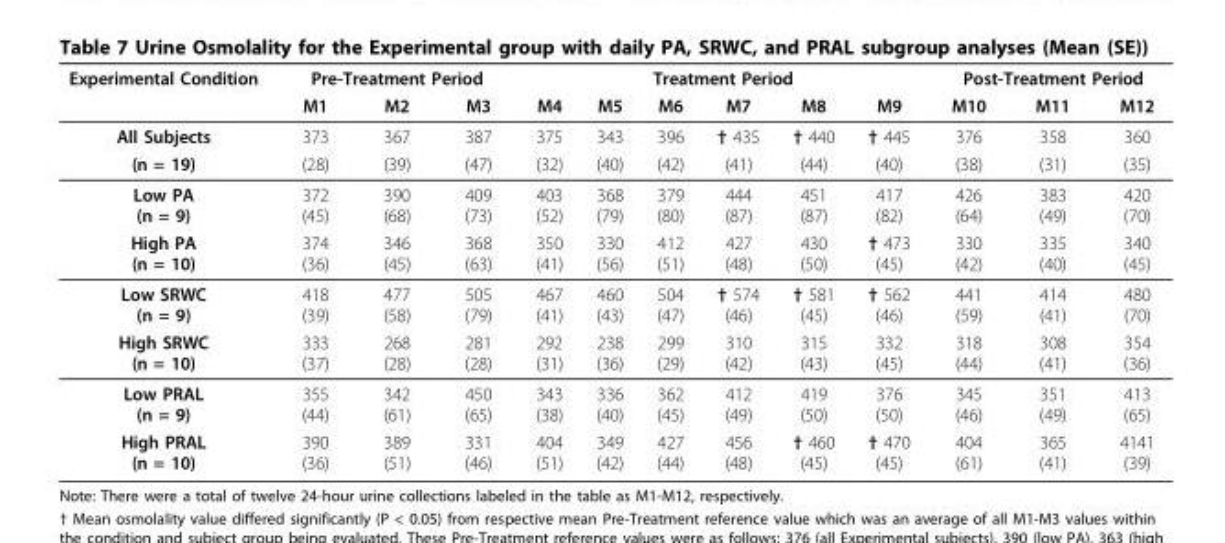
<table><thead><tr><td rowspan="2">Experimental Condition</td><td colspan="3">Pre-Treatment Period</td><td colspan="6">Treatment Period</td><td colspan="3">Post-Treatment Period</td></tr><tr><td>M1</td><td>M2</td><td>M3</td><td>M4</td><td>M5</td><td>M6</td><td>M7</td><td>M8</td><td>M9</td><td>M10</td><td>M11</td><td>M12</td></tr></thead><tbody><tr><td>All Subjects</td><td>373</td><td>367</td><td>387</td><td>375</td><td>343</td><td>396</td><td>† 435</td><td>† 440</td><td>† 445</td><td>376</td><td>358</td><td>360</td></tr><tr><td>(n = 19)</td><td>(28)</td><td>(39)</td><td>(47)</td><td>(32)</td><td>(40)</td><td>(42)</td><td>(41)</td><td>(44)</td><td>(40)</td><td>(38)</td><td>(31)</td><td>(35)</td></tr><tr><td>Low PA (n = 9)</td><td>372 (45)</td><td>390 (68)</td><td>409 (73)</td><td>403 (52)</td><td>368 (79)</td><td>379 (80)</td><td>444 (87)</td><td>451 (87)</td><td>417 (82)</td><td>426 (64)</td><td>383 (49)</td><td>420 (70)</td></tr><tr><td>High PA (n = 10)</td><td>374 (36)</td><td>346 (45)</td><td>368 (63)</td><td>350 (41)</td><td>330 (56)</td><td>412 (51)</td><td>427 (48)</td><td>430 (50)</td><td>† 473 (45)</td><td>330 (42)</td><td>335 (40)</td><td>340 (45)</td></tr><tr><td>Low SRWC (n = 9)</td><td>418 (39)</td><td>477 (58)</td><td>505 (79)</td><td>467 (41)</td><td>460 (43)</td><td>504 (47)</td><td>† 574 (46)</td><td>† 581 (45)</td><td>† 562 (46)</td><td>441 (59)</td><td>414 (41)</td><td>480 (70)</td></tr><tr><td>High SRWC (n = 10)</td><td>333 (37)</td><td>268 (28)</td><td>281 (28)</td><td>292 (31)</td><td>238 (36)</td><td>299 (29)</td><td>310 (42)</td><td>315 (43)</td><td>332 (45)</td><td>318 (44)</td><td>308 (41)</td><td>354 (36)</td></tr><tr><td>Low PRAL (n = 9)</td><td>355 (44)</td><td>342 (61)</td><td>450 (65)</td><td>343 (38)</td><td>336 (40)</td><td>362 (45)</td><td>412 (49)</td><td>419 (50)</td><td>376 (50)</td><td>345 (46)</td><td>351 (49)</td><td>413 (65)</td></tr><tr><td>High PRAL (n = 10)</td><td>390 (36)</td><td>389 (51)</td><td>331 (46)</td><td>404 (51)</td><td>349 (42)</td><td>427 (44)</td><td>456 (48)</td><td>† 460 (45)</td><td>† 470 (45)</td><td>404 (61)</td><td>365 (41)</td><td>4141 (39)</td></tr></tbody></table>